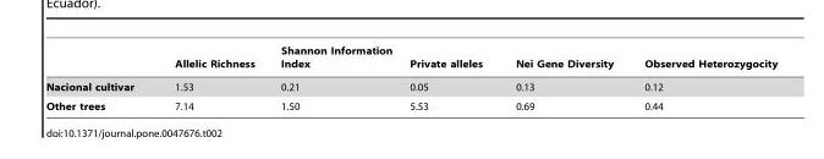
<table><thead><tr><td></td><td>Allelic Richness</td><td>Shannon Information Index</td><td>Private alleles</td><td>Nei Gene Diversity</td><td>Observed Heterozygocity</td></tr></thead><tbody><tr><td>Nacional cultivar</td><td>1.53</td><td>0.21</td><td>0.05</td><td>0.13</td><td>0.12</td></tr><tr><td>Other trees</td><td>7.14</td><td>1.50</td><td>5.53</td><td>0.69</td><td>0.44</td></tr></tbody></table>